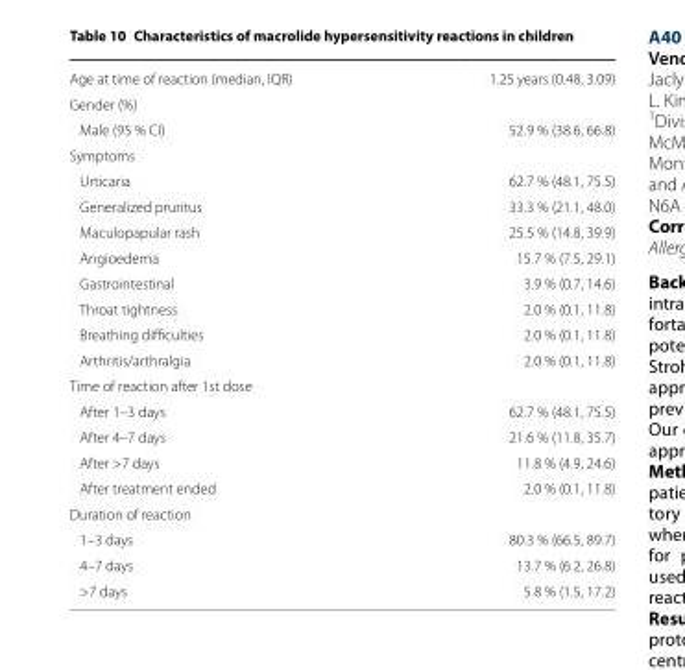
<table><tbody><tr><td>Age at time of reaction (median, IQR)</td><td>1.25 years (0.48, 3.09)</td></tr><tr><td colspan="2">Gender (%)</td></tr><tr><td>Male (95 % CI)</td><td>52.9 % (38.6, 66.8)</td></tr><tr><td colspan="2">Symptoms</td></tr><tr><td>Urticaria</td><td>62.7 % (48.1, 75.5)</td></tr><tr><td>Generalized pruritus</td><td>33.3 % (21.1, 48.0)</td></tr><tr><td>Maculopapular rash</td><td>25.5 % (14.8, 39.9)</td></tr><tr><td>Angioedema</td><td>15.7 % (7.5, 29.1)</td></tr><tr><td>Gastrointestinal</td><td>3.9 % (0.7, 14.6)</td></tr><tr><td>Throat tightness</td><td>2.0 % (0.1, 11.8)</td></tr><tr><td>Breathing difficulties</td><td>2.0 % (0.1, 11.8)</td></tr><tr><td>Arthritis/arthralgia</td><td>2.0 % (0.1, 11.8)</td></tr><tr><td colspan="2">Time of reaction after 1st dose</td></tr><tr><td>After 1–3 days</td><td>62.7 % (48.1, 75.5)</td></tr><tr><td>After 4–7 days</td><td>21.6 % (11.8, 35.7)</td></tr><tr><td>After &gt;7 days</td><td>11.8 % (4.9, 24.6)</td></tr><tr><td>After treatment ended</td><td>2.0 % (0.1, 11.8)</td></tr><tr><td colspan="2">Duration of reaction</td></tr><tr><td>1–3 days</td><td>80.3 % (66.5, 89.7)</td></tr><tr><td>4–7 days</td><td>13.7 % (6.2, 26.8)</td></tr><tr><td>&gt;7 days</td><td>5.8 % (1.5, 17.2)</td></tr></tbody></table>